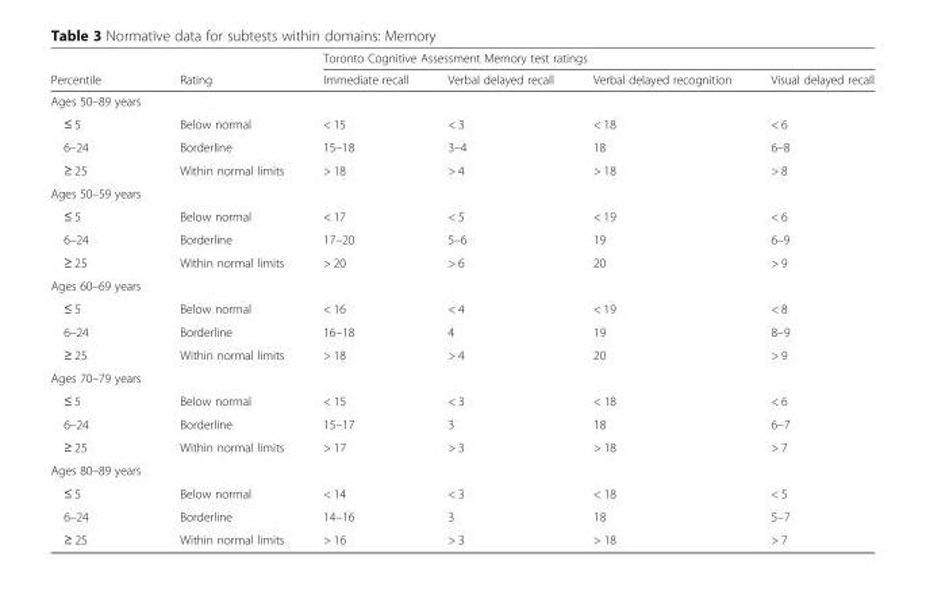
<table><thead><tr><td rowspan="2">Percentile</td><td rowspan="2">Rating</td><td colspan="4">Toronto Cognitive Assessment Memory test ratings</td></tr><tr><td>Immediate recall</td><td>Verbal delayed recall</td><td>Verbal delayed recognition</td><td>Visual delayed recall</td></tr></thead><tbody><tr><td colspan="6">Ages 50–89 years</td></tr><tr><td>≤ 5</td><td>Below normal</td><td>&lt; 15</td><td>&lt; 3</td><td>&lt; 18</td><td>&lt; 6</td></tr><tr><td>6–24</td><td>Borderline</td><td>15–18</td><td>3–4</td><td>18</td><td>6–8</td></tr><tr><td>≥ 25</td><td>Within normal limits</td><td>&gt; 18</td><td>&gt; 4</td><td>&gt; 18</td><td>&gt; 8</td></tr><tr><td colspan="6">Ages 50–59 years</td></tr><tr><td>≤ 5</td><td>Below normal</td><td>&lt; 17</td><td>&lt; 5</td><td>&lt; 19</td><td>&lt; 6</td></tr><tr><td>6–24</td><td>Borderline</td><td>17–20</td><td>5–6</td><td>19</td><td>6–9</td></tr><tr><td>≥ 25</td><td>Within normal limits</td><td>&gt; 20</td><td>&gt; 6</td><td>20</td><td>&gt; 9</td></tr><tr><td colspan="6">Ages 60–69 years</td></tr><tr><td>≤ 5</td><td>Below normal</td><td>&lt; 16</td><td>&lt; 4</td><td>&lt; 19</td><td>&lt; 8</td></tr><tr><td>6–24</td><td>Borderline</td><td>16–18</td><td>4</td><td>19</td><td>8–9</td></tr><tr><td>≥ 25</td><td>Within normal limits</td><td>&gt; 18</td><td>&gt; 4</td><td>20</td><td>&gt; 9</td></tr><tr><td colspan="6">Ages 70–79 years</td></tr><tr><td>≤ 5</td><td>Below normal</td><td>&lt; 15</td><td>&lt; 3</td><td>&lt; 18</td><td>&lt; 6</td></tr><tr><td>6–24</td><td>Borderline</td><td>15–17</td><td>3</td><td>18</td><td>6–7</td></tr><tr><td>≥ 25</td><td>Within normal limits</td><td>&gt; 17</td><td>&gt; 3</td><td>&gt; 18</td><td>&gt; 7</td></tr><tr><td colspan="6">Ages 80–89 years</td></tr><tr><td>≤ 5</td><td>Below normal</td><td>&lt; 14</td><td>&lt; 3</td><td>&lt; 18</td><td>&lt; 5</td></tr><tr><td>6–24</td><td>Borderline</td><td>14–16</td><td>3</td><td>18</td><td>5–7</td></tr><tr><td>≥ 25</td><td>Within normal limits</td><td>&gt; 16</td><td>&gt; 3</td><td>&gt; 18</td><td>&gt; 7</td></tr></tbody></table>